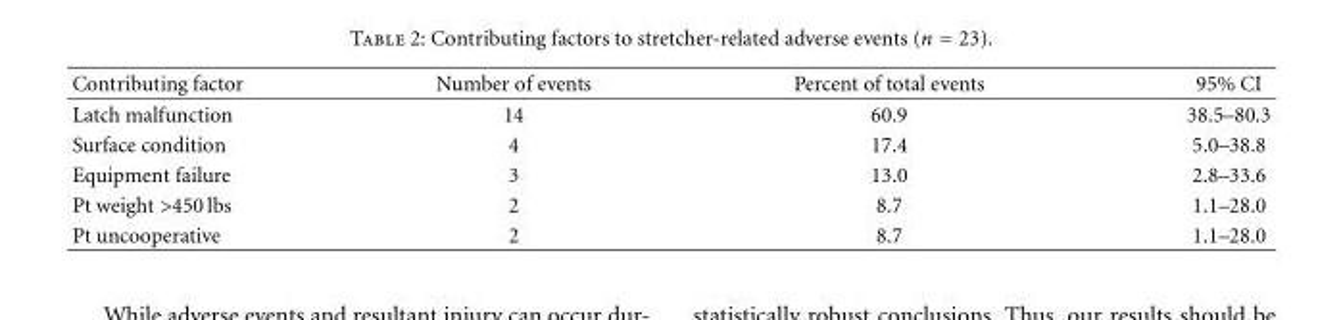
<table><thead><tr><td>Contributing factor</td><td>Number of events</td><td>Percent of total events</td><td>95% CI</td></tr></thead><tbody><tr><td>Latch malfunction</td><td>14</td><td>60.9</td><td>38.5–80.3</td></tr><tr><td>Surface condition</td><td>4</td><td>17.4</td><td>5.0–38.8</td></tr><tr><td>Equipment failure</td><td>3</td><td>13.0</td><td>2.8–33.6</td></tr><tr><td>Pt weight &gt;450 lbs</td><td>2</td><td>8.7</td><td>1.1–28.0</td></tr><tr><td>Pt uncooperative</td><td>2</td><td>8.7</td><td>1.1–28.0</td></tr></tbody></table>